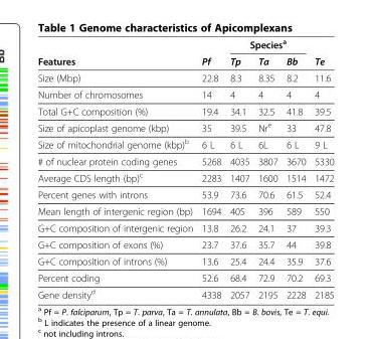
<table><thead><tr><td rowspan="2">Features</td><td rowspan="2">Pf</td><td colspan="3">Species<sup>a</sup></td><td rowspan="2">Te</td></tr><tr><td>Tp</td><td>Ta</td><td>Bb</td></tr></thead><tbody><tr><td>Size (Mbp)</td><td>22.8</td><td>8.3</td><td>8.35</td><td>8.2</td><td>11.6</td></tr><tr><td>Number of chromosomes</td><td>14</td><td>4</td><td>4</td><td>4</td><td>4</td></tr><tr><td>Total G+C composition (%)</td><td>19.4</td><td>34.1</td><td>32.5</td><td>41.8</td><td>39.5</td></tr><tr><td>Size of apicoplast genome (kbp)</td><td>35</td><td>39.5</td><td>Nr<sup>e</sup></td><td>33</td><td>47.8</td></tr><tr><td>Size of mitochondrial genome (kbp)<sup>b</sup></td><td>6 L</td><td>6 L</td><td>6L</td><td>6 L</td><td>9 L</td></tr><tr><td># of nuclear protein coding genes</td><td>5268</td><td>4035</td><td>3807</td><td>3670</td><td>5330</td></tr><tr><td>Average CDS length (bp)<sup>c</sup></td><td>2283</td><td>1407</td><td>1600</td><td>1514</td><td>1472</td></tr><tr><td>Percent genes with introns</td><td>53.9</td><td>73.6</td><td>70.6</td><td>61.5</td><td>52.4</td></tr><tr><td>Mean length of intergenic region (bp)</td><td>1694</td><td>405</td><td>396</td><td>589</td><td>550</td></tr><tr><td>G+C composition of intergenic region</td><td>13.8</td><td>26.2</td><td>24.1</td><td>37</td><td>39.3</td></tr><tr><td>G+C composition of exons (%)</td><td>23.7</td><td>37.6</td><td>35.7</td><td>44</td><td>39.8</td></tr><tr><td>G+C composition of introns (%)</td><td>13.6</td><td>25.4</td><td>24.4</td><td>35.9</td><td>37.6</td></tr><tr><td>Percent coding</td><td>52.6</td><td>68.4</td><td>72.9</td><td>70.2</td><td>69.3</td></tr><tr><td>Gene density<sup>d</sup></td><td>4338</td><td>2057</td><td>2195</td><td>2228</td><td>2185</td></tr></tbody></table>